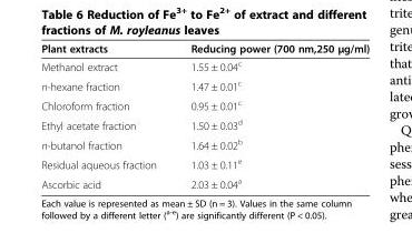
<table><thead><tr><td>Plant extracts</td><td>Reducing power (700 nm,250 μg/ml)</td></tr></thead><tbody><tr><td>Methanol extract</td><td>1.55 ± 0.04<sup>c</sup></td></tr><tr><td>n-hexane fraction</td><td>1.47 ± 0.01<sup>c</sup></td></tr><tr><td>Chloroform fraction</td><td>0.95 ± 0.01<sup>c</sup></td></tr><tr><td>Ethyl acetate fraction</td><td>1.50 ± 0.03<sup>d</sup></td></tr><tr><td>n-butanol fraction</td><td>1.64 ± 0.02<sup>b</sup></td></tr><tr><td>Residual aqueous fraction</td><td>1.03 ± 0.11<sup>e</sup></td></tr><tr><td>Ascorbic acid</td><td>2.03 ± 0.04<sup>a</sup></td></tr></tbody></table>